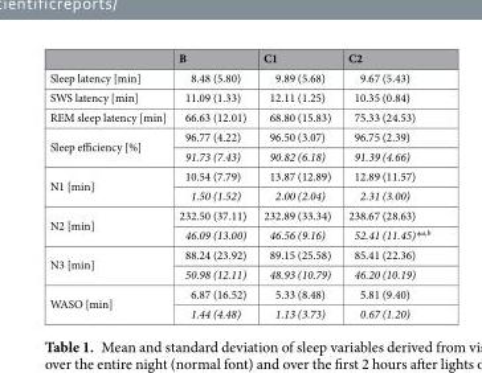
<table><thead><tr><td></td><td>B</td><td>C1</td><td>C2</td></tr></thead><tbody><tr><td>Sleep latency [min]</td><td>8.48 (5.80)</td><td>9.89 (5.68)</td><td>9.67 (5.43)</td></tr><tr><td>SWS latency [min]</td><td>11.09 (1.33)</td><td>12.11 (1.25)</td><td>10.35 (0.84)</td></tr><tr><td>REM sleep latency [min]</td><td>66.63 (12.01)</td><td>68.80 (15.83)</td><td>75.33 (24.53)</td></tr><tr><td rowspan="2">Sleep efficiency [%]</td><td>96.77 (4.22)</td><td>96.50 (3.07)</td><td>96.75 (2.39)</td></tr><tr><td>91.73 (7.43)</td><td>90.82 (6.18)</td><td>91.39 (4.66)</td></tr><tr><td rowspan="2">N1 [min]</td><td>10.54 (7.79)</td><td>13.87 (12.89)</td><td>12.89 (11.57)</td></tr><tr><td>1.50 (1.52)</td><td>2.00 (2.04)</td><td>2.31 (3.00)</td></tr><tr><td rowspan="2">N2 [min]</td><td>232.50 (37.11)</td><td>232.89 (33.34)</td><td>238.67 (28.63)</td></tr><tr><td>46.09 (13.00)</td><td>46.56 (9.16)</td><td>52.41 (11.45)*<sup>a,b</sup></td></tr><tr><td rowspan="2">N3 [min]</td><td>88.24 (23.92)</td><td>89.15 (25.58)</td><td>85.41 (22.36)</td></tr><tr><td>50.98 (12.11)</td><td>48.93 (10.79)</td><td>46.20 (10.19)</td></tr><tr><td rowspan="2">WASO [min]</td><td>6.87 (16.52)</td><td>5.33 (8.48)</td><td>5.81 (9.40)</td></tr><tr><td>1.44 (4.48)</td><td>1.13 (3.73)</td><td>0.67 (1.20)</td></tr></tbody></table>